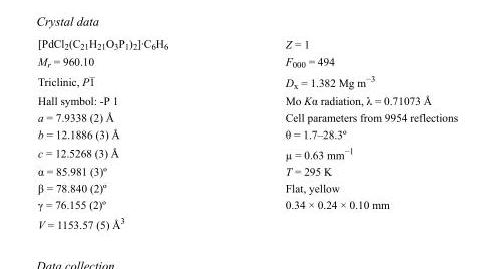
<table><tbody><tr><td>[PdCl2(C21H21O3P1)2]·C6H6</td><td>Z = 1</td></tr><tr><td>M<sub>r</sub> = 960.10</td><td>F000 = 494</td></tr><tr><td>Triclinic, P1</td><td>D<sub>x</sub> = 1.382 Mg m<sup>−3</sup></td></tr><tr><td>Hall symbol: -P 1</td><td>Mo Kα radiation, λ = 0.71073 Å</td></tr><tr><td>a = 7.9338 (2) Å</td><td>Cell parameters from 9954 reflections</td></tr><tr><td>b = 12.1886 (3) Å</td><td>θ = 1.7–28.3º</td></tr><tr><td>c = 12.5268 (3) Å</td><td>µ = 0.63 mm<sup>−1</sup></td></tr><tr><td>α = 85.981 (3)º</td><td>T = 295 K</td></tr><tr><td>β = 78.840 (2)º</td><td>Flat, yellow</td></tr><tr><td>γ = 76.155 (2)º</td><td>0.34 × 0.24 × 0.10 mm</td></tr><tr><td>V = 1153.57 (5) Å<sup>3</sup></td><td></td></tr></tbody></table>